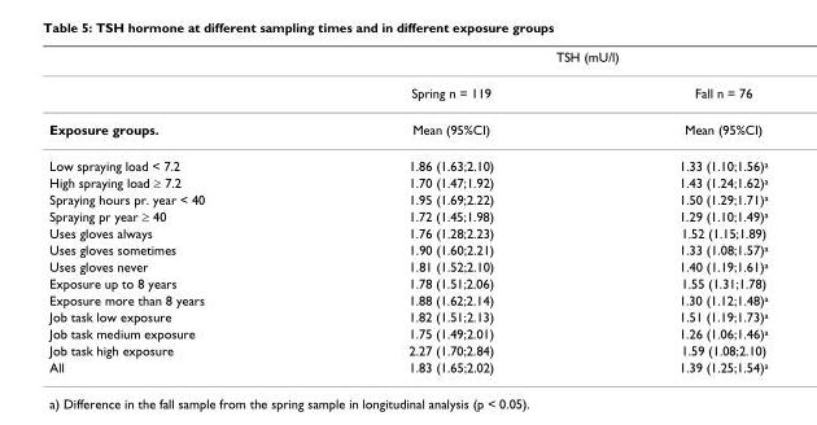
<table><thead><tr><td rowspan="2"></td><td colspan="2">TSH (mU/l)</td></tr><tr><td>Spring n = 119</td><td>Fall n = 76</td></tr></thead><tbody><tr><td>Exposure groups.</td><td>Mean (95%CI)</td><td>Mean (95%CI)</td></tr><tr><td>Low spraying load &lt; 7.2</td><td>1.86 (1.63;2.10)</td><td>1.33 (1.10;1.56)<sup>a</sup></td></tr><tr><td>High spraying load ≥ 7.2</td><td>1.70 (1.47;1.92)</td><td>1.43 (1.24;1.62)<sup>a</sup></td></tr><tr><td>Spraying hours pr. year &lt; 40</td><td>1.95 (1.69;2.22)</td><td>1.50 (1.29;1.71)<sup>a</sup></td></tr><tr><td>Spraying pr year ≥ 40</td><td>1.72 (1.45;1.98)</td><td>1.29 (1.10;1.49)<sup>a</sup></td></tr><tr><td>Uses gloves always</td><td>1.76 (1.28;2.23)</td><td>1.52 (1.15;1.89)</td></tr><tr><td>Uses gloves sometimes</td><td>1.90 (1.60;2.21)</td><td>1.33 (1.08;1.57)<sup>a</sup></td></tr><tr><td>Uses gloves never</td><td>1.81 (1.52;2.10)</td><td>1.40 (1.19;1.61)<sup>a</sup></td></tr><tr><td>Exposure up to 8 years</td><td>1.78 (1.51;2.06)</td><td>1.55 (1.31;1.78)</td></tr><tr><td>Exposure more than 8 years</td><td>1.88 (1.62;2.14)</td><td>1.30 (1.12;1.48)<sup>a</sup></td></tr><tr><td>Job task low exposure</td><td>1.82 (1.51;2.13)</td><td>1.51 (1.19;1.73)<sup>a</sup></td></tr><tr><td>Job task medium exposure</td><td>1.75 (1.49;2.01)</td><td>1.26 (1.06;1.46)<sup>a</sup></td></tr><tr><td>Job task high exposure</td><td>2.27 (1.70;2.84)</td><td>1.59 (1.08;2.10)</td></tr><tr><td>All</td><td>1.83 (1.65;2.02)</td><td>1.39 (1.25;1.54)<sup>a</sup></td></tr></tbody></table>